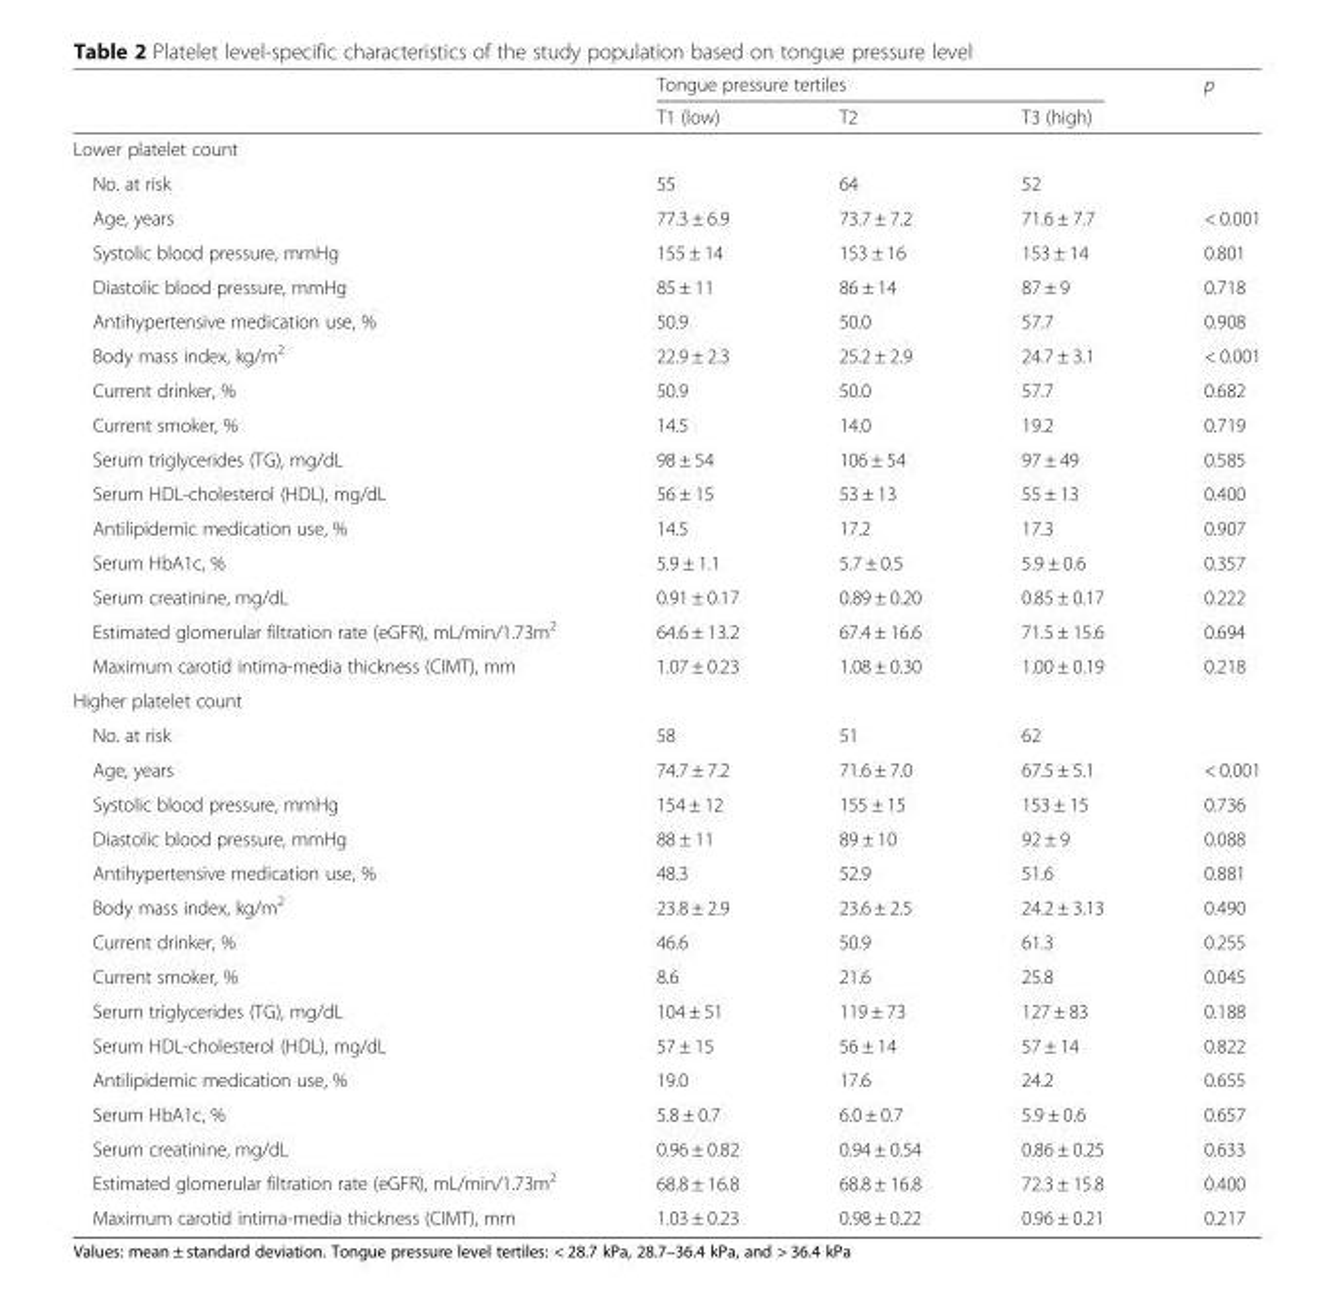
<table><thead><tr><td rowspan="2"></td><td colspan="3">Tongue pressure tertiles</td><td rowspan="2">p</td></tr><tr><td>T1 (low)</td><td>T2</td><td>T3 (high)</td></tr></thead><tbody><tr><td colspan="5">Lower platelet count</td></tr><tr><td>No. at risk</td><td>55</td><td>64</td><td>52</td><td></td></tr><tr><td>Age, years</td><td>77.3 ± 6.9</td><td>73.7 ± 7.2</td><td>71.6 ± 7.7</td><td>&lt; 0.001</td></tr><tr><td>Systolic blood pressure, mmHg</td><td>155 ± 14</td><td>153 ± 16</td><td>153 ± 14</td><td>0.801</td></tr><tr><td>Diastolic blood pressure, mmHg</td><td>85 ± 11</td><td>86 ± 14</td><td>87 ± 9</td><td>0.718</td></tr><tr><td>Antihypertensive medication use, %</td><td>50.9</td><td>50.0</td><td>57.7</td><td>0.908</td></tr><tr><td>Body mass index, kg/m<sup>2</sup></td><td>22.9 ± 2.3</td><td>25.2 ± 2.9</td><td>24.7 ± 3.1</td><td>&lt; 0.001</td></tr><tr><td>Current drinker, %</td><td>50.9</td><td>50.0</td><td>57.7</td><td>0.682</td></tr><tr><td>Current smoker, %</td><td>14.5</td><td>14.0</td><td>19.2</td><td>0.719</td></tr><tr><td>Serum triglycerides (TG), mg/dL</td><td>98 ± 54</td><td>106 ± 54</td><td>97 ± 49</td><td>0.585</td></tr><tr><td>Serum HDL-cholesterol (HDL), mg/dL</td><td>56 ± 15</td><td>53 ± 13</td><td>55 ± 13</td><td>0.400</td></tr><tr><td>Antilipidemic medication use, %</td><td>14.5</td><td>17.2</td><td>17.3</td><td>0.907</td></tr><tr><td>Serum HbA1c, %</td><td>5.9 ± 1.1</td><td>5.7 ± 0.5</td><td>5.9 ± 0.6</td><td>0.357</td></tr><tr><td>Serum creatinine, mg/dL</td><td>0.91 ± 0.17</td><td>0.89 ± 0.20</td><td>0.85 ± 0.17</td><td>0.222</td></tr><tr><td>Estimated glomerular filtration rate (eGFR), mL/min/1.73m<sup>2</sup></td><td>64.6 ± 13.2</td><td>67.4 ± 16.6</td><td>71.5 ± 15.6</td><td>0.694</td></tr><tr><td>Maximum carotid intima-media thickness (CIMT), mm</td><td>1.07 ± 0.23</td><td>1.08 ± 0.30</td><td>1.00 ± 0.19</td><td>0.218</td></tr><tr><td colspan="5">Higher platelet count</td></tr><tr><td>No. at risk</td><td>58</td><td>51</td><td>62</td><td></td></tr><tr><td>Age, years</td><td>74.7 ± 7.2</td><td>71.6 ± 7.0</td><td>67.5 ± 5.1</td><td>&lt; 0.001</td></tr><tr><td>Systolic blood pressure, mmHg</td><td>154 ± 12</td><td>155 ± 15</td><td>153 ± 15</td><td>0.736</td></tr><tr><td>Diastolic blood pressure, mmHg</td><td>88 ± 11</td><td>89 ± 10</td><td>92 ± 9</td><td>0.088</td></tr><tr><td>Antihypertensive medication use, %</td><td>48.3</td><td>52.9</td><td>51.6</td><td>0.881</td></tr><tr><td>Body mass index, kg/m<sup>2</sup></td><td>23.8 ± 2.9</td><td>23.6 ± 2.5</td><td>24.2 ± 3.13</td><td>0.490</td></tr><tr><td>Current drinker, %</td><td>46.6</td><td>50.9</td><td>61.3</td><td>0.255</td></tr><tr><td>Current smoker, %</td><td>8.6</td><td>21.6</td><td>25.8</td><td>0.045</td></tr><tr><td>Serum triglycerides (TG), mg/dL</td><td>104 ± 51</td><td>119 ± 73</td><td>127 ± 83</td><td>0.188</td></tr><tr><td>Serum HDL-cholesterol (HDL), mg/dL</td><td>57 ± 15</td><td>56 ± 14</td><td>57 ± 14</td><td>0.822</td></tr><tr><td>Antilipidemic medication use, %</td><td>19.0</td><td>17.6</td><td>24.2</td><td>0.655</td></tr><tr><td>Serum HbA1c, %</td><td>5.8 ± 0.7</td><td>6.0 ± 0.7</td><td>5.9 ± 0.6</td><td>0.657</td></tr><tr><td>Serum creatinine, mg/dL</td><td>0.96 ± 0.82</td><td>0.94 ± 0.54</td><td>0.86 ± 0.25</td><td>0.633</td></tr><tr><td>Estimated glomerular filtration rate (eGFR), mL/min/1.73m<sup>2</sup></td><td>68.8 ± 16.8</td><td>68.8 ± 16.8</td><td>72.3 ± 15.8</td><td>0.400</td></tr><tr><td>Maximum carotid intima-media thickness (CIMT), mm</td><td>1.03 ± 0.23</td><td>0.98 ± 0.22</td><td>0.96 ± 0.21</td><td>0.217</td></tr></tbody></table>